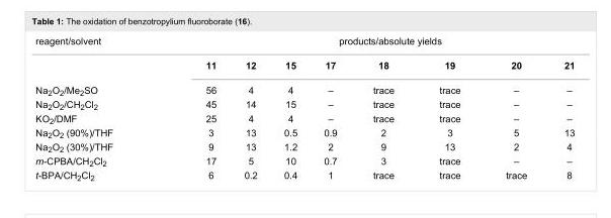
<table><tbody><tr><td rowspan="2">reagent/solvent</td><td colspan="8">products/absolute yields</td></tr><tr><td>11</td><td>12</td><td>15</td><td>17</td><td>18</td><td>19</td><td>20</td><td>21</td></tr><tr><td>Na<sub>2</sub>O<sub>2</sub>/Me<sub>2</sub>SO</td><td>56</td><td>4</td><td>4</td><td>–</td><td>trace</td><td>trace</td><td>–</td><td>–</td></tr><tr><td>Na<sub>2</sub>O<sub>2</sub>/CH<sub>2</sub>Cl<sub>2</sub></td><td>45</td><td>14</td><td>15</td><td>–</td><td>trace</td><td>trace</td><td>–</td><td>–</td></tr><tr><td>KO<sub>2</sub>/DMF</td><td>25</td><td>4</td><td>4</td><td>–</td><td>trace</td><td>trace</td><td>–</td><td>–</td></tr><tr><td>Na<sub>2</sub>O<sub>2</sub> (90%)/THF</td><td>3</td><td>13</td><td>0.5</td><td>0.9</td><td>2</td><td>3</td><td>5</td><td>13</td></tr><tr><td>Na<sub>2</sub>O<sub>2</sub> (30%)/THF</td><td>9</td><td>13</td><td>1.2</td><td>2</td><td>9</td><td>13</td><td>2</td><td>4</td></tr><tr><td>m-CPBA/CH<sub>2</sub>Cl<sub>2</sub></td><td>17</td><td>5</td><td>10</td><td>0.7</td><td>3</td><td>trace</td><td>–</td><td>–</td></tr><tr><td>t-BPA/CH<sub>2</sub>Cl<sub>2</sub></td><td>6</td><td>0.2</td><td>0.4</td><td>1</td><td>trace</td><td>trace</td><td>trace</td><td>8</td></tr></tbody></table>